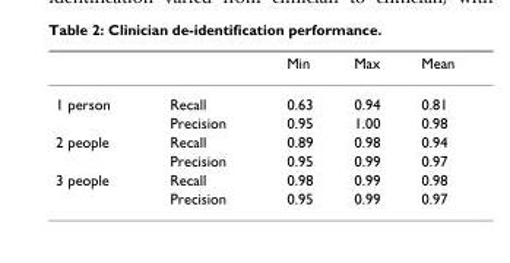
<table><thead><tr><td></td><td></td><td>Min</td><td>Max</td><td>Mean</td></tr></thead><tbody><tr><td rowspan="2">1 person</td><td>Recall</td><td>0.63</td><td>0.94</td><td>0.81</td></tr><tr><td>Precision</td><td>0.95</td><td>1.00</td><td>0.98</td></tr><tr><td rowspan="2">2 people</td><td>Recall</td><td>0.89</td><td>0.98</td><td>0.94</td></tr><tr><td>Precision</td><td>0.95</td><td>0.99</td><td>0.97</td></tr><tr><td rowspan="2">3 people</td><td>Recall</td><td>0.98</td><td>0.99</td><td>0.98</td></tr><tr><td>Precision</td><td>0.95</td><td>0.99</td><td>0.97</td></tr></tbody></table>